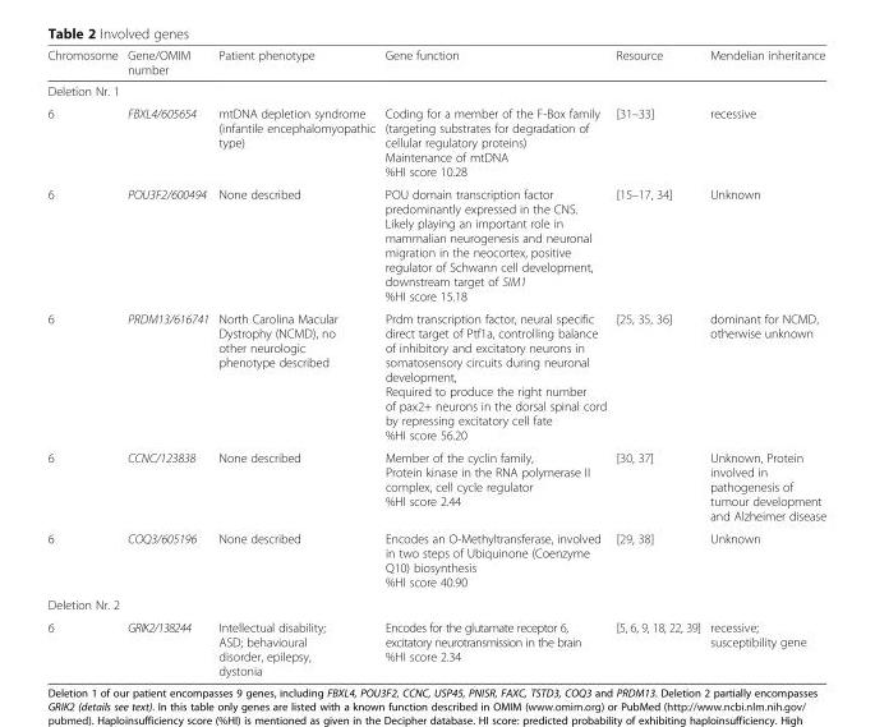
<table><thead><tr><td>Chromosome</td><td>Gene/OMIM number</td><td>Patient phenotype</td><td>Gene function</td><td>Resource</td><td>Mendelian inheritance</td></tr></thead><tbody><tr><td colspan="6">Deletion Nr. 1</td></tr><tr><td>6</td><td>FBXL4/605654</td><td>mtDNA depletion syndrome (infantile encephalomyopathic type)</td><td>Coding for a member of the F-Box family (targeting substrates for degradation of cellular regulatory proteins) Maintenance of mtDNA %HI score 10.28</td><td>[31–33]</td><td>recessive</td></tr><tr><td>6</td><td>POU3F2/600494</td><td>None described</td><td>POU domain transcription factor predominantly expressed in the CNS. Likely playing an important role in mammalian neurogenesis and neuronal migration in the neocortex, positive regulator of Schwann cell development, downstream target of SIM1 %HI score 15.18</td><td>[15–17, 34]</td><td>Unknown</td></tr><tr><td>6</td><td>PRDM13/616741</td><td>North Carolina Macular Dystrophy (NCMD), no other neurologic phenotype described</td><td>Prdm transcription factor, neural specific direct target of Ptf1a, controlling balance of inhibitory and excitatory neurons in somatosensory circuits during neuronal development, Required to produce the right number of pax2+ neurons in the dorsal spinal cord by repressing excitatory cell fate %HI score 56.20</td><td>[25, 35, 36]</td><td>dominant for NCMD, otherwise unknown</td></tr><tr><td>6</td><td>CCNC/123838</td><td>None described</td><td>Member of the cyclin family, Protein kinase in the RNA polymerase II complex, cell cycle regulator %HI score 2.44</td><td>[30, 37]</td><td>Unknown, Protein involved in pathogenesis of tumour development and Alzheimer disease</td></tr><tr><td>6</td><td>COQ3/605196</td><td>None described</td><td>Encodes an O-Methyltransferase, involved in two steps of Ubiquinone (Coenzyme Q10) biosynthesis %HI score 40.90</td><td>[29, 38]</td><td>Unknown</td></tr><tr><td colspan="6">Deletion Nr. 2</td></tr><tr><td>6</td><td>GRIK2/138244</td><td>Intellectual disability; ASD; behavioural disorder, epilepsy, dystonia</td><td>Encodes for the glutamate receptor 6, excitatory neurotransmission in the brain %HI score 2.34</td><td>[5, 6, 9, 18, 22, 39]</td><td>recessive; susceptibility gene</td></tr></tbody></table>